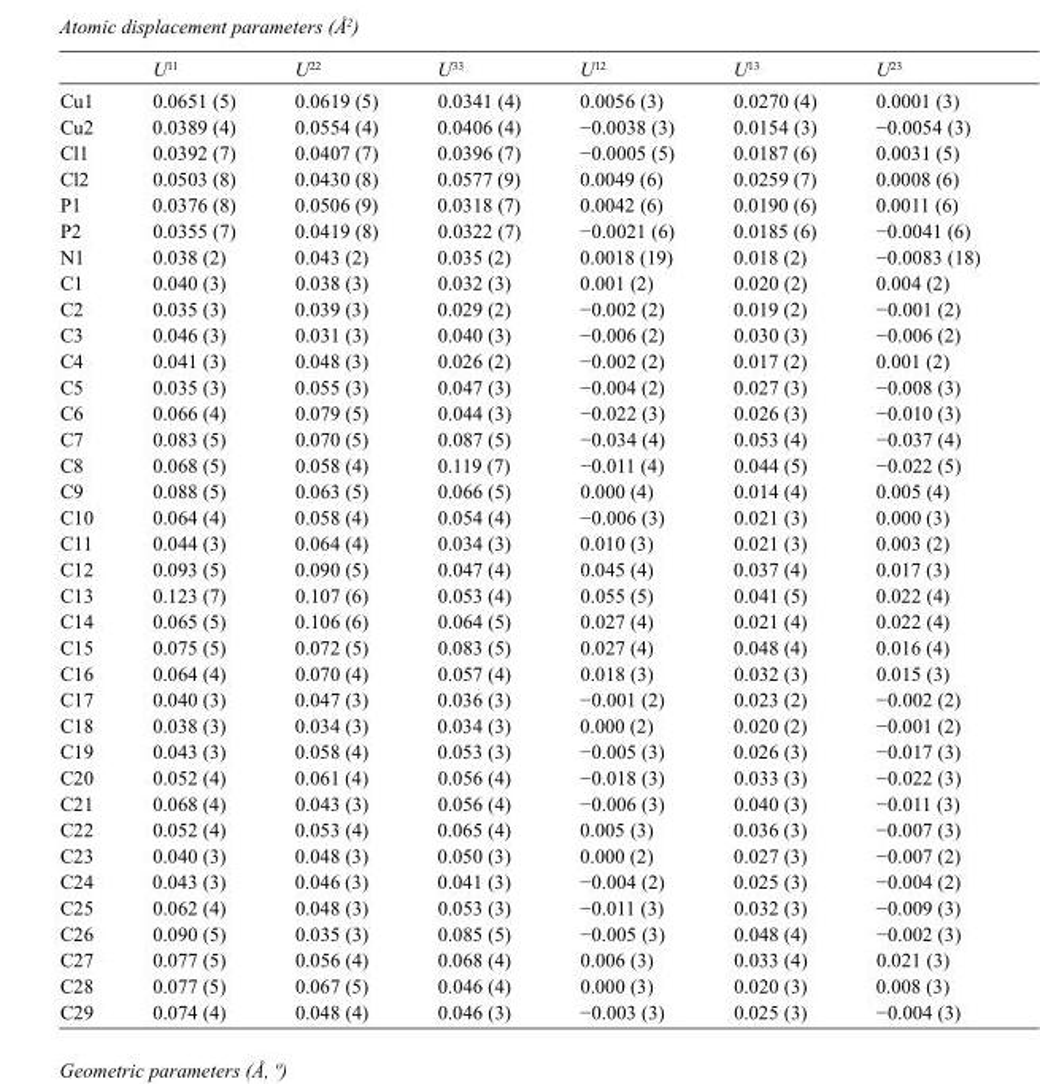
<table><thead><tr><td></td><td>U<sup>11</sup></td><td>U<sup>22</sup></td><td>U<sup>33</sup></td><td>U<sup>12</sup></td><td>U<sup>13</sup></td><td>U<sup>23</sup></td></tr></thead><tbody><tr><td>Cu1</td><td>0.0651 (5)</td><td>0.0619 (5)</td><td>0.0341 (4)</td><td>0.0056 (3)</td><td>0.0270 (4)</td><td>0.0001 (3)</td></tr><tr><td>Cu2</td><td>0.0389 (4)</td><td>0.0554 (4)</td><td>0.0406 (4)</td><td>−0.0038 (3)</td><td>0.0154 (3)</td><td>−0.0054 (3)</td></tr><tr><td>Cl1</td><td>0.0392 (7)</td><td>0.0407 (7)</td><td>0.0396 (7)</td><td>−0.0005 (5)</td><td>0.0187 (6)</td><td>0.0031 (5)</td></tr><tr><td>Cl2</td><td>0.0503 (8)</td><td>0.0430 (8)</td><td>0.0577 (9)</td><td>0.0049 (6)</td><td>0.0259 (7)</td><td>0.0008 (6)</td></tr><tr><td>P1</td><td>0.0376 (8)</td><td>0.0506 (9)</td><td>0.0318 (7)</td><td>0.0042 (6)</td><td>0.0190 (6)</td><td>0.0011 (6)</td></tr><tr><td>P2</td><td>0.0355 (7)</td><td>0.0419 (8)</td><td>0.0322 (7)</td><td>−0.0021 (6)</td><td>0.0185 (6)</td><td>−0.0041 (6)</td></tr><tr><td>N1</td><td>0.038 (2)</td><td>0.043 (2)</td><td>0.035 (2)</td><td>0.0018 (19)</td><td>0.018 (2)</td><td>−0.0083 (18)</td></tr><tr><td>C1</td><td>0.040 (3)</td><td>0.038 (3)</td><td>0.032 (3)</td><td>0.001 (2)</td><td>0.020 (2)</td><td>0.004 (2)</td></tr><tr><td>C2</td><td>0.035 (3)</td><td>0.039 (3)</td><td>0.029 (2)</td><td>−0.002 (2)</td><td>0.019 (2)</td><td>−0.001 (2)</td></tr><tr><td>C3</td><td>0.046 (3)</td><td>0.031 (3)</td><td>0.040 (3)</td><td>−0.006 (2)</td><td>0.030 (3)</td><td>−0.006 (2)</td></tr><tr><td>C4</td><td>0.041 (3)</td><td>0.048 (3)</td><td>0.026 (2)</td><td>−0.002 (2)</td><td>0.017 (2)</td><td>0.001 (2)</td></tr><tr><td>C5</td><td>0.035 (3)</td><td>0.055 (3)</td><td>0.047 (3)</td><td>−0.004 (2)</td><td>0.027 (3)</td><td>−0.008 (3)</td></tr><tr><td>C6</td><td>0.066 (4)</td><td>0.079 (5)</td><td>0.044 (3)</td><td>−0.022 (3)</td><td>0.026 (3)</td><td>−0.010 (3)</td></tr><tr><td>C7</td><td>0.083 (5)</td><td>0.070 (5)</td><td>0.087 (5)</td><td>−0.034 (4)</td><td>0.053 (4)</td><td>−0.037 (4)</td></tr><tr><td>C8</td><td>0.068 (5)</td><td>0.058 (4)</td><td>0.119 (7)</td><td>−0.011 (4)</td><td>0.044 (5)</td><td>−0.022 (5)</td></tr><tr><td>C9</td><td>0.088 (5)</td><td>0.063 (5)</td><td>0.066 (5)</td><td>0.000 (4)</td><td>0.014 (4)</td><td>0.005 (4)</td></tr><tr><td>C10</td><td>0.064 (4)</td><td>0.058 (4)</td><td>0.054 (4)</td><td>−0.006 (3)</td><td>0.021 (3)</td><td>0.000 (3)</td></tr><tr><td>C11</td><td>0.044 (3)</td><td>0.064 (4)</td><td>0.034 (3)</td><td>0.010 (3)</td><td>0.021 (3)</td><td>0.003 (2)</td></tr><tr><td>C12</td><td>0.093 (5)</td><td>0.090 (5)</td><td>0.047 (4)</td><td>0.045 (4)</td><td>0.037 (4)</td><td>0.017 (3)</td></tr><tr><td>C13</td><td>0.123 (7)</td><td>0.107 (6)</td><td>0.053 (4)</td><td>0.055 (5)</td><td>0.041 (5)</td><td>0.022 (4)</td></tr><tr><td>C14</td><td>0.065 (5)</td><td>0.106 (6)</td><td>0.064 (5)</td><td>0.027 (4)</td><td>0.021 (4)</td><td>0.022 (4)</td></tr><tr><td>C15</td><td>0.075 (5)</td><td>0.072 (5)</td><td>0.083 (5)</td><td>0.027 (4)</td><td>0.048 (4)</td><td>0.016 (4)</td></tr><tr><td>C16</td><td>0.064 (4)</td><td>0.070 (4)</td><td>0.057 (4)</td><td>0.018 (3)</td><td>0.032 (3)</td><td>0.015 (3)</td></tr><tr><td>C17</td><td>0.040 (3)</td><td>0.047 (3)</td><td>0.036 (3)</td><td>−0.001 (2)</td><td>0.023 (2)</td><td>−0.002 (2)</td></tr><tr><td>C18</td><td>0.038 (3)</td><td>0.034 (3)</td><td>0.034 (3)</td><td>0.000 (2)</td><td>0.020 (2)</td><td>−0.001 (2)</td></tr><tr><td>C19</td><td>0.043 (3)</td><td>0.058 (4)</td><td>0.053 (3)</td><td>−0.005 (3)</td><td>0.026 (3)</td><td>−0.017 (3)</td></tr><tr><td>C20</td><td>0.052 (4)</td><td>0.061 (4)</td><td>0.056 (4)</td><td>−0.018 (3)</td><td>0.033 (3)</td><td>−0.022 (3)</td></tr><tr><td>C21</td><td>0.068 (4)</td><td>0.043 (3)</td><td>0.056 (4)</td><td>−0.006 (3)</td><td>0.040 (3)</td><td>−0.011 (3)</td></tr><tr><td>C22</td><td>0.052 (4)</td><td>0.053 (4)</td><td>0.065 (4)</td><td>0.005 (3)</td><td>0.036 (3)</td><td>−0.007 (3)</td></tr><tr><td>C23</td><td>0.040 (3)</td><td>0.048 (3)</td><td>0.050 (3)</td><td>0.000 (2)</td><td>0.027 (3)</td><td>−0.007 (2)</td></tr><tr><td>C24</td><td>0.043 (3)</td><td>0.046 (3)</td><td>0.041 (3)</td><td>−0.004 (2)</td><td>0.025 (3)</td><td>−0.004 (2)</td></tr><tr><td>C25</td><td>0.062 (4)</td><td>0.048 (3)</td><td>0.053 (3)</td><td>−0.011 (3)</td><td>0.032 (3)</td><td>−0.009 (3)</td></tr><tr><td>C26</td><td>0.090 (5)</td><td>0.035 (3)</td><td>0.085 (5)</td><td>−0.005 (3)</td><td>0.048 (4)</td><td>−0.002 (3)</td></tr><tr><td>C27</td><td>0.077 (5)</td><td>0.056 (4)</td><td>0.068 (4)</td><td>0.006 (3)</td><td>0.033 (4)</td><td>0.021 (3)</td></tr><tr><td>C28</td><td>0.077 (5)</td><td>0.067 (5)</td><td>0.046 (4)</td><td>0.000 (3)</td><td>0.020 (3)</td><td>0.008 (3)</td></tr><tr><td>C29</td><td>0.074 (4)</td><td>0.048 (4)</td><td>0.046 (3)</td><td>−0.003 (3)</td><td>0.025 (3)</td><td>−0.004 (3)</td></tr></tbody></table>